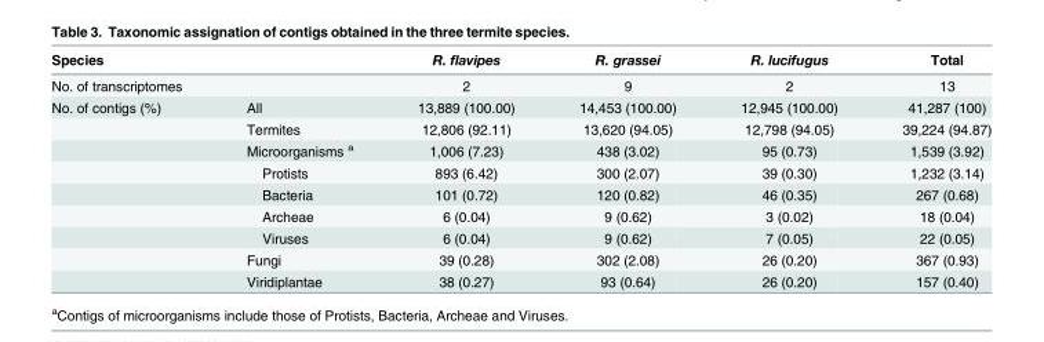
<table><thead><tr><td>Species</td><td></td><td>R. flavipes</td><td>R. grassei</td><td>R. lucifugus</td><td>Total</td></tr></thead><tbody><tr><td>No. of transcriptomes</td><td></td><td>2</td><td>9</td><td>2</td><td>13</td></tr><tr><td rowspan="9">No. of contigs (%)</td><td>All</td><td>13,889 (100.00)</td><td>14,453 (100.00)</td><td>12,945 (100.00)</td><td>41,287 (100)</td></tr><tr><td>Termites</td><td>12,806 (92.11)</td><td>13,620 (94.05)</td><td>12,798 (94.05)</td><td>39,224 (94.87)</td></tr><tr><td>Microorganisms <sup>a</sup></td><td>1,006 (7.23)</td><td>438 (3.02)</td><td>95 (0.73)</td><td>1,539 (3.92)</td></tr><tr><td>Protists</td><td>893 (6.42)</td><td>300 (2.07)</td><td>39 (0.30)</td><td>1,232 (3.14)</td></tr><tr><td>Bacteria</td><td>101 (0.72)</td><td>120 (0.82)</td><td>46 (0.35)</td><td>267 (0.68)</td></tr><tr><td>Archeae</td><td>6 (0.04)</td><td>9 (0.62)</td><td>3 (0.02)</td><td>18 (0.04)</td></tr><tr><td>Viruses</td><td>6 (0.04)</td><td>9 (0.62)</td><td>7 (0.05)</td><td>22 (0.05)</td></tr><tr><td>Fungi</td><td>39 (0.28)</td><td>302 (2.08)</td><td>26 (0.20)</td><td>367 (0.93)</td></tr><tr><td>Viridiplantae</td><td>38 (0.27)</td><td>93 (0.64)</td><td>26 (0.20)</td><td>157 (0.40)</td></tr></tbody></table>